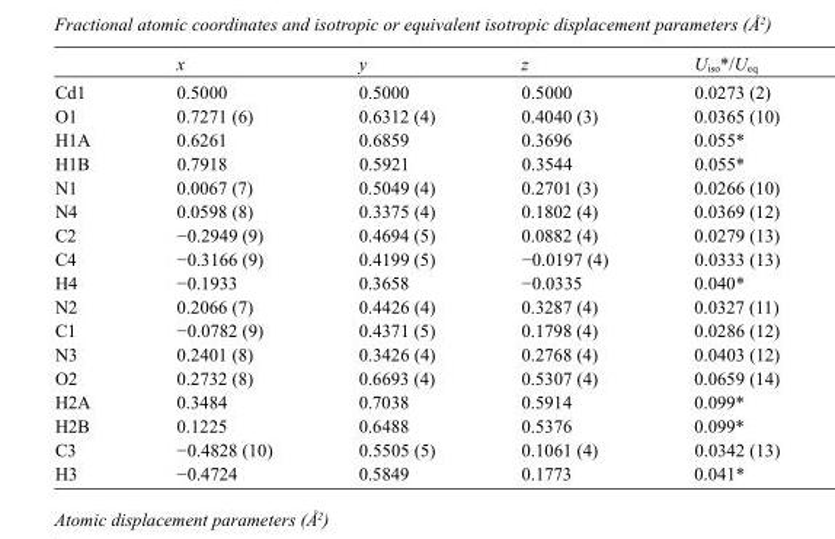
<table><thead><tr><td></td><td>x</td><td>y</td><td>z</td><td>U<sub>iso</sub>*/U<sub>eq</sub></td></tr></thead><tbody><tr><td>Cd1</td><td>0.5000</td><td>0.5000</td><td>0.5000</td><td>0.0273 (2)</td></tr><tr><td>O1</td><td>0.7271 (6)</td><td>0.6312 (4)</td><td>0.4040 (3)</td><td>0.0365 (10)</td></tr><tr><td>H1A</td><td>0.6261</td><td>0.6859</td><td>0.3696</td><td>0.055*</td></tr><tr><td>H1B</td><td>0.7918</td><td>0.5921</td><td>0.3544</td><td>0.055*</td></tr><tr><td>N1</td><td>0.0067 (7)</td><td>0.5049 (4)</td><td>0.2701 (3)</td><td>0.0266 (10)</td></tr><tr><td>N4</td><td>0.0598 (8)</td><td>0.3375 (4)</td><td>0.1802 (4)</td><td>0.0369 (12)</td></tr><tr><td>C2</td><td>−0.2949 (9)</td><td>0.4694 (5)</td><td>0.0882 (4)</td><td>0.0279 (13)</td></tr><tr><td>C4</td><td>−0.3166 (9)</td><td>0.4199 (5)</td><td>−0.0197 (4)</td><td>0.0333 (13)</td></tr><tr><td>H4</td><td>−0.1933</td><td>0.3658</td><td>−0.0335</td><td>0.040*</td></tr><tr><td>N2</td><td>0.2066 (7)</td><td>0.4426 (4)</td><td>0.3287 (4)</td><td>0.0327 (11)</td></tr><tr><td>C1</td><td>−0.0782 (9)</td><td>0.4371 (5)</td><td>0.1798 (4)</td><td>0.0286 (12)</td></tr><tr><td>N3</td><td>0.2401 (8)</td><td>0.3426 (4)</td><td>0.2768 (4)</td><td>0.0403 (12)</td></tr><tr><td>O2</td><td>0.2732 (8)</td><td>0.6693 (4)</td><td>0.5307 (4)</td><td>0.0659 (14)</td></tr><tr><td>H2A</td><td>0.3484</td><td>0.7038</td><td>0.5914</td><td>0.099*</td></tr><tr><td>H2B</td><td>0.1225</td><td>0.6488</td><td>0.5376</td><td>0.099*</td></tr><tr><td>C3</td><td>−0.4828 (10)</td><td>0.5505 (5)</td><td>0.1061 (4)</td><td>0.0342 (13)</td></tr><tr><td>H3</td><td>−0.4724</td><td>0.5849</td><td>0.1773</td><td>0.041*</td></tr></tbody></table>